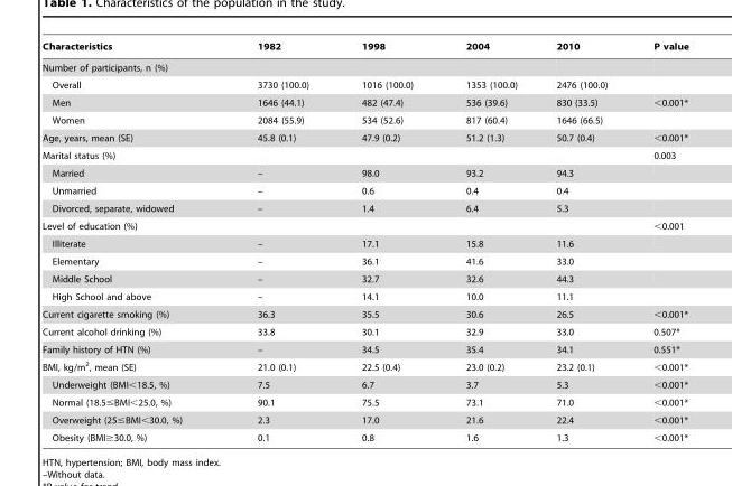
<table><thead><tr><td>Characteristics</td><td>1982</td><td>1998</td><td>2004</td><td>2010</td><td>P value</td></tr></thead><tbody><tr><td colspan="6">Number of participants, n (%)</td></tr><tr><td>Overall</td><td>3730 (100.0)</td><td>1016 (100.0)</td><td>1353 (100.0)</td><td>2476 (100.0)</td><td></td></tr><tr><td>Men</td><td>1646 (44.1)</td><td>482 (47.4)</td><td>536 (39.6)</td><td>830 (33.5)</td><td>&lt;0.001*</td></tr><tr><td>Women</td><td>2084 (55.9)</td><td>534 (52.6)</td><td>817 (60.4)</td><td>1646 (66.5)</td><td></td></tr><tr><td>Age, years, mean (SE)</td><td>45.8 (0.1)</td><td>47.9 (0.2)</td><td>51.2 (1.3)</td><td>50.7 (0.4)</td><td>&lt;0.001*</td></tr><tr><td>Marital status (%)</td><td></td><td></td><td></td><td></td><td>0.003</td></tr><tr><td>Married</td><td>–</td><td>98.0</td><td>93.2</td><td>94.3</td><td></td></tr><tr><td>Unmarried</td><td>–</td><td>0.6</td><td>0.4</td><td>0.4</td><td></td></tr><tr><td>Divorced, separate, widowed</td><td>–</td><td>1.4</td><td>6.4</td><td>5.3</td><td></td></tr><tr><td>Level of education (%)</td><td></td><td></td><td></td><td></td><td>&lt;0.001</td></tr><tr><td>Illiterate</td><td>–</td><td>17.1</td><td>15.8</td><td>11.6</td><td></td></tr><tr><td>Elementary</td><td>–</td><td>36.1</td><td>41.6</td><td>33.0</td><td></td></tr><tr><td>Middle School</td><td>–</td><td>32.7</td><td>32.6</td><td>44.3</td><td></td></tr><tr><td>High School and above</td><td>–</td><td>14.1</td><td>10.0</td><td>11.1</td><td></td></tr><tr><td>Current cigarette smoking (%)</td><td>36.3</td><td>35.5</td><td>30.6</td><td>26.5</td><td>&lt;0.001*</td></tr><tr><td>Current alcohol drinking (%)</td><td>33.8</td><td>30.1</td><td>32.9</td><td>33.0</td><td>0.507*</td></tr><tr><td>Family history of HTN (%)</td><td>–</td><td>34.5</td><td>35.4</td><td>34.1</td><td>0.551*</td></tr><tr><td>BMI, kg/m<sup>2</sup>, mean (SE)</td><td>21.0 (0.1)</td><td>22.5 (0.4)</td><td>23.0 (0.2)</td><td>23.2 (0.1)</td><td>&lt;0.001*</td></tr><tr><td>Underweight (BMI&lt;18.5, %)</td><td>7.5</td><td>6.7</td><td>3.7</td><td>5.3</td><td>&lt;0.001*</td></tr><tr><td>Normal (18.5≤BMI&lt;25.0, %)</td><td>90.1</td><td>75.5</td><td>73.1</td><td>71.0</td><td>&lt;0.001*</td></tr><tr><td>Overweight (25≤BMI&lt;30.0, %)</td><td>2.3</td><td>17.0</td><td>21.6</td><td>22.4</td><td>&lt;0.001*</td></tr><tr><td>Obesity (BMI≥30.0, %)</td><td>0.1</td><td>0.8</td><td>1.6</td><td>1.3</td><td>&lt;0.001*</td></tr></tbody></table>